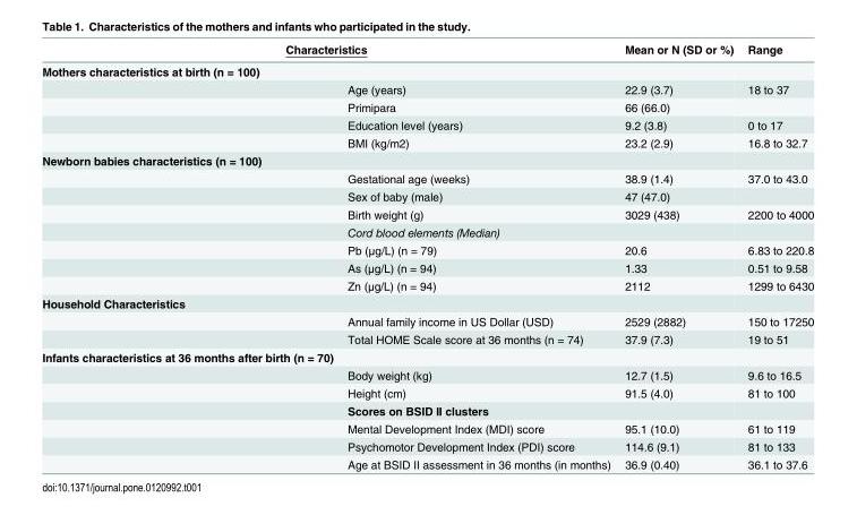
<table><thead><tr><td colspan="2">Characteristics</td><td rowspan="2">Mean or N (SD or %)</td><td rowspan="2">Range</td></tr><tr><td>Mothers characteristics at birth (n = 100)</td><td></td></tr></thead><tbody><tr><td></td><td>Age (years)</td><td>22.9 (3.7)</td><td>18 to 37</td></tr><tr><td></td><td>Primipara</td><td>66 (66.0)</td><td></td></tr><tr><td></td><td>Education level (years)</td><td>9.2 (3.8)</td><td>0 to 17</td></tr><tr><td></td><td>BMI (kg/m2)</td><td>23.2 (2.9)</td><td>16.8 to 32.7</td></tr><tr><td colspan="4">Newborn babies characteristics (n = 100)</td></tr><tr><td></td><td>Gestational age (weeks)</td><td>38.9 (1.4)</td><td>37.0 to 43.0</td></tr><tr><td></td><td>Sex of baby (male)</td><td>47 (47.0)</td><td></td></tr><tr><td></td><td>Birth weight (g)</td><td>3029 (438)</td><td>2200 to 4000</td></tr><tr><td></td><td>Cord blood elements (Median)</td><td></td><td></td></tr><tr><td></td><td>Pb (μg/L) (n = 79)</td><td>20.6</td><td>6.83 to 220.8</td></tr><tr><td></td><td>As (μg/L) (n = 94)</td><td>1.33</td><td>0.51 to 9.58</td></tr><tr><td></td><td>Zn (μg/L) (n = 94)</td><td>2112</td><td>1299 to 6430</td></tr><tr><td colspan="4">Household Characteristics</td></tr><tr><td></td><td>Annual family income in US Dollar (USD)</td><td>2529 (2882)</td><td>150 to 17250</td></tr><tr><td></td><td>Total HOME Scale score at 36 months (n = 74)</td><td>37.9 (7.3)</td><td>19 to 51</td></tr><tr><td colspan="4">Infants characteristics at 36 months after birth (n = 70)</td></tr><tr><td></td><td>Body weight (kg)</td><td>12.7 (1.5)</td><td>9.6 to 16.5</td></tr><tr><td></td><td>Height (cm)</td><td>91.5 (4.0)</td><td>81 to 100</td></tr><tr><td></td><td>Scores on BSID II clusters</td><td></td><td></td></tr><tr><td></td><td>Mental Development Index (MDI) score</td><td>95.1 (10.0)</td><td>61 to 119</td></tr><tr><td></td><td>Psychomotor Development Index (PDI) score</td><td>114.6 (9.1)</td><td>81 to 133</td></tr><tr><td></td><td>Age at BSID II assessment in 36 months (in months)</td><td>36.9 (0.40)</td><td>36.1 to 37.6</td></tr></tbody></table>